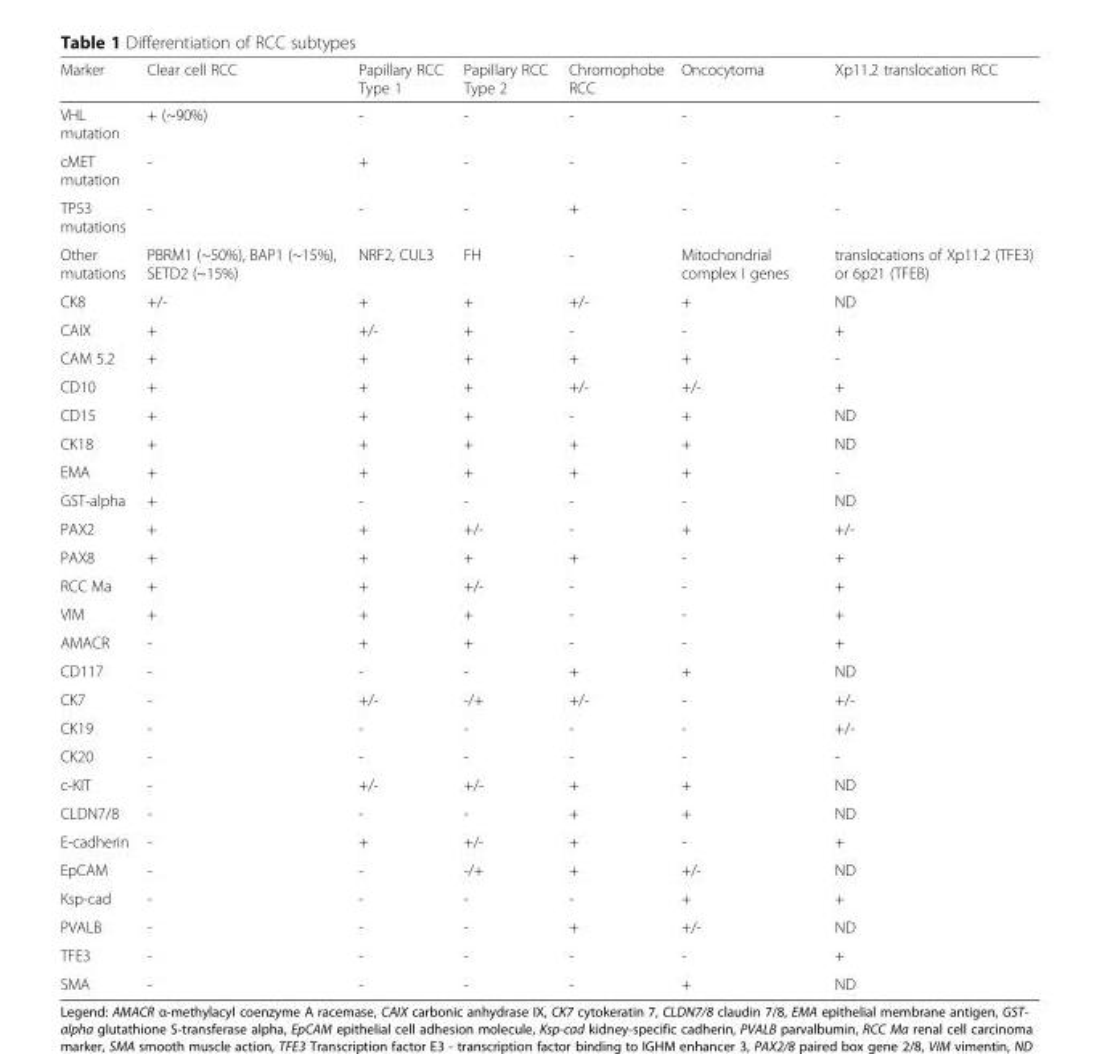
<table><thead><tr><td>Marker</td><td>Clear cell RCC</td><td>Papillary RCC Type 1</td><td>Papillary RCC Type 2</td><td>Chromophobe RCC</td><td>Oncocytoma</td><td>Xp11.2 translocation RCC</td></tr></thead><tbody><tr><td>VHL mutation</td><td>+ (~90%)</td><td>-</td><td>-</td><td>-</td><td>-</td><td>-</td></tr><tr><td>cMET mutation</td><td>-</td><td>+</td><td>-</td><td>-</td><td>-</td><td>-</td></tr><tr><td>TP53 mutations</td><td>-</td><td>-</td><td>-</td><td>+</td><td>-</td><td>-</td></tr><tr><td>Other mutations</td><td>PBRM1 (~50%), BAP1 (~15%), SETD2 (~15%)</td><td>NRF2, CUL3</td><td>FH</td><td>-</td><td>Mitochondrial complex I genes</td><td>translocations of Xp11.2 (TFE3) or 6p21 (TFEB)</td></tr><tr><td>CK8</td><td>+/-</td><td>+</td><td>+</td><td>+/-</td><td>+</td><td>ND</td></tr><tr><td>CAIX</td><td>+</td><td>+/-</td><td>+</td><td>-</td><td>-</td><td>+</td></tr><tr><td>CAM 5.2</td><td>+</td><td>+</td><td>+</td><td>+</td><td>+</td><td>-</td></tr><tr><td>CD10</td><td>+</td><td>+</td><td>+</td><td>+/-</td><td>+/-</td><td>+</td></tr><tr><td>CD15</td><td>+</td><td>+</td><td>+</td><td>-</td><td>+</td><td>ND</td></tr><tr><td>CK18</td><td>+</td><td>+</td><td>+</td><td>+</td><td>+</td><td>ND</td></tr><tr><td>EMA</td><td>+</td><td>+</td><td>+</td><td>+</td><td>+</td><td>-</td></tr><tr><td>GST-alpha</td><td>+</td><td>-</td><td>-</td><td>-</td><td>-</td><td>ND</td></tr><tr><td>PAX2</td><td>+</td><td>+</td><td>+/-</td><td>-</td><td>+</td><td>+/-</td></tr><tr><td>PAX8</td><td>+</td><td>+</td><td>+</td><td>+</td><td>-</td><td>+</td></tr><tr><td>RCC Ma</td><td>+</td><td>+</td><td>+/-</td><td>-</td><td>-</td><td>+</td></tr><tr><td>VIM</td><td>+</td><td>+</td><td>+</td><td>-</td><td>-</td><td>+</td></tr><tr><td>AMACR</td><td>-</td><td>+</td><td>+</td><td>-</td><td>-</td><td>+</td></tr><tr><td>CD117</td><td>-</td><td>-</td><td>-</td><td>+</td><td>+</td><td>ND</td></tr><tr><td>CK7</td><td>-</td><td>+/-</td><td>-/+</td><td>+/-</td><td>-</td><td>+/-</td></tr><tr><td>CK19</td><td>-</td><td>-</td><td>-</td><td>-</td><td>-</td><td>+/-</td></tr><tr><td>CK20</td><td>-</td><td>-</td><td>-</td><td>-</td><td>-</td><td>-</td></tr><tr><td>c-KIT</td><td>-</td><td>+/-</td><td>+/-</td><td>+</td><td>+</td><td>ND</td></tr><tr><td>CLDN7/8</td><td>-</td><td>-</td><td>-</td><td>+</td><td>+</td><td>ND</td></tr><tr><td>E-cadherin</td><td>-</td><td>+</td><td>+/-</td><td>+</td><td>-</td><td>+</td></tr><tr><td>EpCAM</td><td>-</td><td>-</td><td>-/+</td><td>+</td><td>+/-</td><td>ND</td></tr><tr><td>Ksp-cad</td><td>-</td><td>-</td><td>-</td><td>-</td><td>+</td><td>+</td></tr><tr><td>PVALB</td><td>-</td><td>-</td><td>-</td><td>+</td><td>+/-</td><td>ND</td></tr><tr><td>TFE3</td><td>-</td><td>-</td><td>-</td><td>-</td><td>-</td><td>+</td></tr><tr><td>SMA</td><td>-</td><td>-</td><td>-</td><td>-</td><td>+</td><td>ND</td></tr></tbody></table>